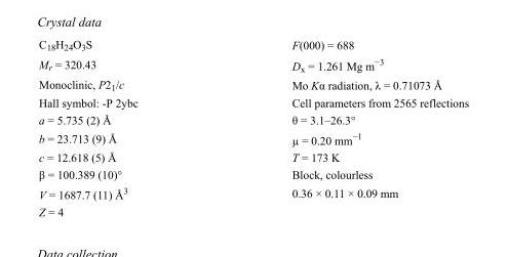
<table><tbody><tr><td>C<sub>18</sub>H<sub>24</sub>O<sub>3</sub>S</td><td>F(000) = 688</td></tr><tr><td>M<sub>r</sub> = 320.43</td><td>D<sub>x</sub> = 1.261 Mg m<sup>−3</sup></td></tr><tr><td>Monoclinic, P2<sub>1</sub>/c</td><td>Mo Kα radiation, λ = 0.71073 Å</td></tr><tr><td>Hall symbol: -P 2ybc</td><td>Cell parameters from 2565 reflections</td></tr><tr><td>a = 5.735 (2) Å</td><td>θ = 3.1–26.3°</td></tr><tr><td>b = 23.713 (9) Å</td><td>µ = 0.20 mm<sup>−1</sup></td></tr><tr><td>c = 12.618 (5) Å</td><td>T = 173 K</td></tr><tr><td>β = 100.389 (10)°</td><td>Block, colourless</td></tr><tr><td>V = 1687.7 (11) Å<sup>3</sup></td><td>0.36 × 0.11 × 0.09 mm</td></tr><tr><td>Z = 4</td><td></td></tr></tbody></table>